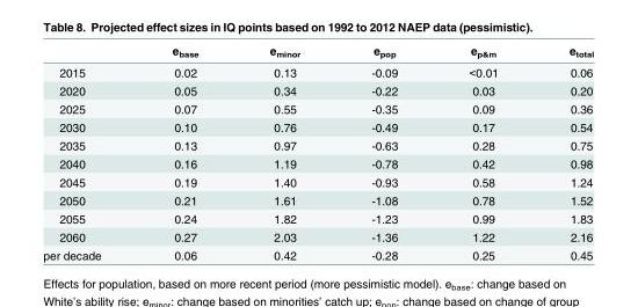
<table><thead><tr><td></td><td>e<sub>base</sub></td><td>e<sub>minor</sub></td><td>e<sub>pop</sub></td><td>e<sub>p&amp;m</sub></td><td>e<sub>total</sub></td></tr></thead><tbody><tr><td>2015</td><td>0.02</td><td>0.13</td><td>-0.09</td><td>&lt;0.01</td><td>0.06</td></tr><tr><td>2020</td><td>0.05</td><td>0.34</td><td>-0.22</td><td>0.03</td><td>0.20</td></tr><tr><td>2025</td><td>0.07</td><td>0.55</td><td>-0.35</td><td>0.09</td><td>0.36</td></tr><tr><td>2030</td><td>0.10</td><td>0.76</td><td>-0.49</td><td>0.17</td><td>0.54</td></tr><tr><td>2035</td><td>0.13</td><td>0.97</td><td>-0.63</td><td>0.28</td><td>0.75</td></tr><tr><td>2040</td><td>0.16</td><td>1.19</td><td>-0.78</td><td>0.42</td><td>0.98</td></tr><tr><td>2045</td><td>0.19</td><td>1.40</td><td>-0.93</td><td>0.58</td><td>1.24</td></tr><tr><td>2050</td><td>0.21</td><td>1.61</td><td>-1.08</td><td>0.78</td><td>1.52</td></tr><tr><td>2055</td><td>0.24</td><td>1.82</td><td>-1.23</td><td>0.99</td><td>1.83</td></tr><tr><td>2060</td><td>0.27</td><td>2.03</td><td>-1.36</td><td>1.22</td><td>2.16</td></tr><tr><td>per decade</td><td>0.06</td><td>0.42</td><td>-0.28</td><td>0.25</td><td>0.45</td></tr></tbody></table>